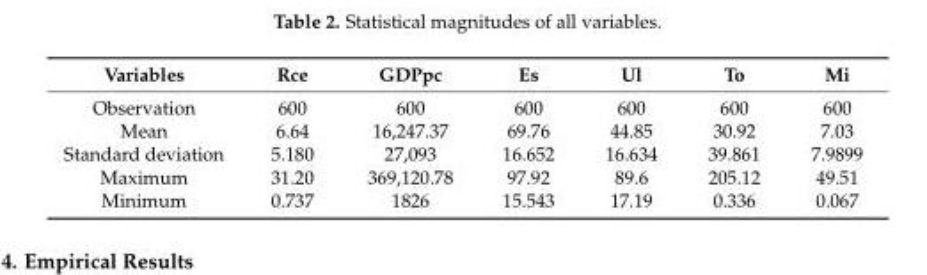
<table><thead><tr><td>Variables</td><td>Rce</td><td>GDPpc</td><td>Es</td><td>Ul</td><td>To</td><td>Mi</td></tr></thead><tbody><tr><td>Observation</td><td>600</td><td>600</td><td>600</td><td>600</td><td>600</td><td>600</td></tr><tr><td>Mean</td><td>6.64</td><td>16,247.37</td><td>69.76</td><td>44.85</td><td>30.92</td><td>7.03</td></tr><tr><td>Standard deviation</td><td>5.180</td><td>27,093</td><td>16.652</td><td>16.634</td><td>39.861</td><td>7.9899</td></tr><tr><td>Maximum</td><td>31.20</td><td>369,120.78</td><td>97.92</td><td>89.6</td><td>205.12</td><td>49.51</td></tr><tr><td>Minimum</td><td>0.737</td><td>1826</td><td>15.543</td><td>17.19</td><td>0.336</td><td>0.067</td></tr></tbody></table>